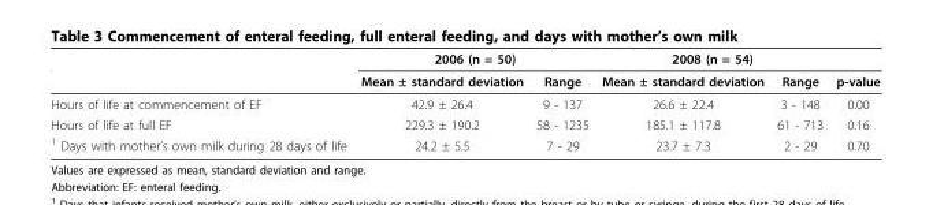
<table><thead><tr><td rowspan="2"></td><td colspan="2">2006 (n = 50)</td><td colspan="2">2008 (n = 54)</td><td rowspan="2">p-value</td></tr><tr><td>Mean ± standard deviation</td><td>Range</td><td>Mean ± standard deviation</td><td>Range</td></tr></thead><tbody><tr><td>Hours of life at commencement of EF</td><td>42.9 ± 26.4</td><td>9 - 137</td><td>26.6 ± 22.4</td><td>3 - 148</td><td>0.00</td></tr><tr><td>Hours of life at full EF</td><td>229.3 ± 190.2</td><td>58 - 1235</td><td>185.1 ± 117.8</td><td>61 - 713</td><td>0.16</td></tr><tr><td><sup>1</sup> Days with mother’s own milk during 28 days of life</td><td>24.2 ± 5.5</td><td>7 - 29</td><td>23.7 ± 7.3</td><td>2 - 29</td><td>0.70</td></tr></tbody></table>